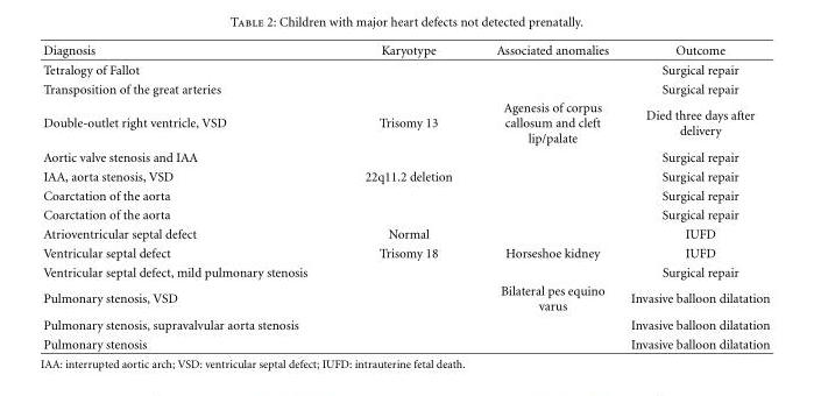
<table><thead><tr><td>Diagnosis</td><td>Karyotype</td><td>Associated anomalies</td><td>Outcome</td></tr></thead><tbody><tr><td>Tetralogy of Fallot</td><td></td><td></td><td>Surgical repair</td></tr><tr><td>Transposition of the great arteries</td><td></td><td></td><td>Surgical repair</td></tr><tr><td>Double-outlet right ventricle, VSD</td><td>Trisomy 13</td><td>Agenesis of corpus callosum and cleft lip/palate</td><td>Died three days after delivery</td></tr><tr><td>Aortic valve stenosis and IAA</td><td></td><td></td><td>Surgical repair</td></tr><tr><td>IAA, aorta stenosis, VSD</td><td>22q11.2 deletion</td><td></td><td>Surgical repair</td></tr><tr><td>Coarctation of the aorta</td><td></td><td></td><td>Surgical repair</td></tr><tr><td>Coarctation of the aorta</td><td></td><td></td><td>Surgical repair</td></tr><tr><td>Atrioventricular septal defect</td><td>Normal</td><td></td><td>IUFD</td></tr><tr><td>Ventricular septal defect</td><td>Trisomy 18</td><td>Horseshoe kidney</td><td>IUFD</td></tr><tr><td>Ventricular septal defect, mild pulmonary stenosis</td><td></td><td></td><td>Surgical repair</td></tr><tr><td>Pulmonary stenosis, VSD</td><td></td><td>Bilateral pes equino varus</td><td>Invasive balloon dilatation</td></tr><tr><td>Pulmonary stenosis, supravalvular aorta stenosis</td><td></td><td></td><td>Invasive balloon dilatation</td></tr><tr><td>Pulmonary stenosis</td><td></td><td></td><td>Invasive balloon dilatation</td></tr></tbody></table>